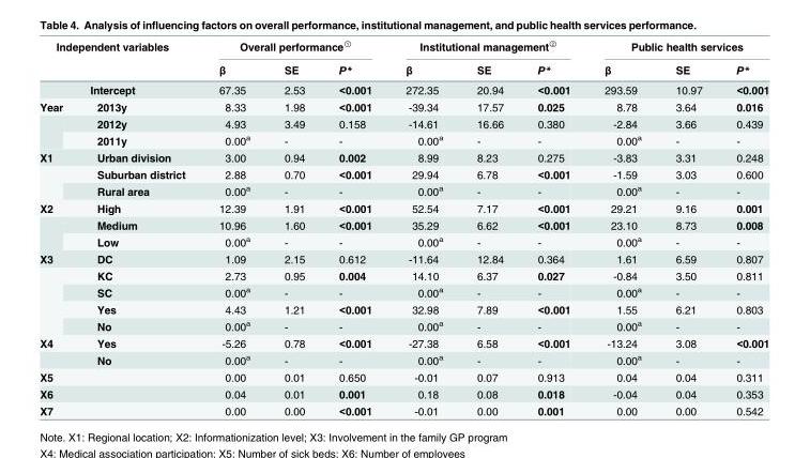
<table><thead><tr><td rowspan="3" colspan="2">Independent variables Intercept</td><td colspan="3">Overall performance<sup>①</sup></td><td colspan="3">Institutional management<sup>②</sup></td><td colspan="3">Public health services</td></tr><tr><td rowspan="3">β 67.35 8.33</td><td rowspan="3">SE 2.53 1.98</td><td rowspan="3">P* &lt;0.001 &lt;0.001</td><td rowspan="3">β 272.35 -39.34</td><td rowspan="3">SE 20.94 17.57</td><td rowspan="3">P* &lt;0.001 0.025</td><td rowspan="3">β 293.59 8.78</td><td rowspan="3">SE 10.97 3.64</td><td rowspan="3">P* &lt;0.001 0.016</td></tr><tr></tr><tr><td>Year</td><td>2013y</td></tr></thead><tbody><tr><td rowspan="2"></td><td>2012y</td><td>4.93</td><td>3.49</td><td>0.158</td><td>-14.61</td><td>16.66</td><td>0.380</td><td>-2.84</td><td>3.66</td><td>0.439</td></tr><tr><td>2011y</td><td>0.00<sup>a</sup></td><td>-</td><td>-</td><td>0.00<sup>a</sup></td><td>-</td><td>-</td><td>0.00<sup>a</sup></td><td>-</td><td>-</td></tr><tr><td rowspan="3">X1</td><td>Urban division</td><td>3.00</td><td>0.94</td><td>0.002</td><td>8.99</td><td>8.23</td><td>0.275</td><td>-3.83</td><td>3.31</td><td>0.248</td></tr><tr><td>Suburban district</td><td>2.88</td><td>0.70</td><td>&lt;0.001</td><td>29.94</td><td>6.78</td><td>&lt;0.001</td><td>-1.59</td><td>3.03</td><td>0.600</td></tr><tr><td>Rural area</td><td>0.00<sup>a</sup></td><td>-</td><td>-</td><td>0.00<sup>a</sup></td><td>-</td><td>-</td><td>0.00<sup>a</sup></td><td>-</td><td>-</td></tr><tr><td rowspan="3">X2</td><td>High</td><td>12.39</td><td>1.91</td><td>&lt;0.001</td><td>52.54</td><td>7.17</td><td>&lt;0.001</td><td>29.21</td><td>9.16</td><td>0.001</td></tr><tr><td>Medium</td><td>10.96</td><td>1.60</td><td>&lt;0.001</td><td>35.29</td><td>6.62</td><td>&lt;0.001</td><td>23.10</td><td>8.73</td><td>0.008</td></tr><tr><td>Low</td><td>0.00<sup>a</sup></td><td>-</td><td>-</td><td>0.00<sup>a</sup></td><td>-</td><td>-</td><td>0.00<sup>a</sup></td><td>-</td><td>-</td></tr><tr><td rowspan="5">X3</td><td>DC</td><td>1.09</td><td>2.15</td><td>0.612</td><td>-11.64</td><td>12.84</td><td>0.364</td><td>1.61</td><td>6.59</td><td>0.807</td></tr><tr><td>KC</td><td>2.73</td><td>0.95</td><td>0.004</td><td>14.10</td><td>6.37</td><td>0.027</td><td>-0.84</td><td>3.50</td><td>0.811</td></tr><tr><td>SC</td><td>0.00<sup>a</sup></td><td>-</td><td>-</td><td>0.00<sup>a</sup></td><td>-</td><td>-</td><td>0.00<sup>a</sup></td><td>-</td><td>-</td></tr><tr><td>Yes</td><td>4.43</td><td>1.21</td><td>&lt;0.001</td><td>32.98</td><td>7.89</td><td>&lt;0.001</td><td>1.55</td><td>6.21</td><td>0.803</td></tr><tr><td>No</td><td>0.00<sup>a</sup></td><td>-</td><td>-</td><td>0.00<sup>a</sup></td><td>-</td><td>-</td><td>0.00<sup>a</sup></td><td>-</td><td>-</td></tr><tr><td rowspan="2">X4</td><td>Yes</td><td>-5.26</td><td>0.78</td><td>&lt;0.001</td><td>-27.38</td><td>6.58</td><td>&lt;0.001</td><td>-13.24</td><td>3.08</td><td>&lt;0.001</td></tr><tr><td>No</td><td>0.00<sup>a</sup></td><td>-</td><td>-</td><td>0.00<sup>a</sup></td><td>-</td><td>-</td><td>0.00<sup>a</sup></td><td>-</td><td>-</td></tr><tr><td>X5</td><td></td><td>0.00</td><td>0.01</td><td>0.650</td><td>-0.01</td><td>0.07</td><td>0.913</td><td>0.04</td><td>0.04</td><td>0.311</td></tr><tr><td>X6</td><td></td><td>0.04</td><td>0.01</td><td>0.001</td><td>0.18</td><td>0.08</td><td>0.018</td><td>-0.04</td><td>0.04</td><td>0.353</td></tr><tr><td>X7</td><td></td><td>0.00</td><td>0.00</td><td>&lt;0.001</td><td>-0.01</td><td>0.00</td><td>0.001</td><td>0.00</td><td>0.00</td><td>0.542</td></tr></tbody></table>